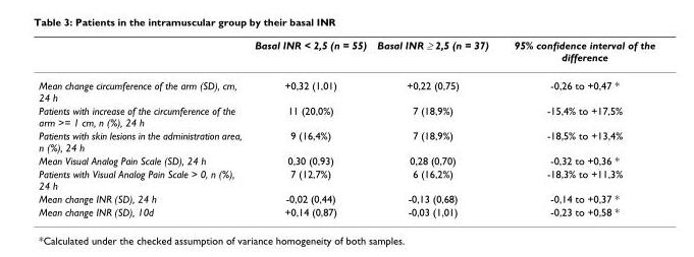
<table><thead><tr><td></td><td>Basal INR &lt; 2,5 (n = 55)</td><td>Basal INR ≥ 2,5 (n = 37)</td><td>95% confidence interval of the difference</td></tr></thead><tbody><tr><td>Mean change circumference of the arm (SD), cm, 24 h</td><td>+0,32 (1,01)</td><td>+0,22 (0,75)</td><td>-0,26 to +0,47 *</td></tr><tr><td>Patients with increase of the circumference of the arm &gt;= 1 cm, n (%), 24 h</td><td>11 (20,0%)</td><td>7 (18,9%)</td><td>-15,4% to +17,5%</td></tr><tr><td>Patients with skin lesions in the administration area, n (%), 24 h</td><td>9 (16,4%)</td><td>7 (18,9%)</td><td>-18,5% to +13,4%</td></tr><tr><td>Mean Visual Analog Pain Scale (SD), 24 h</td><td>0,30 (0,93)</td><td>0,28 (0,70)</td><td>-0,32 to +0,36 *</td></tr><tr><td>Patients with Visual Analog Pain Scale &gt; 0, n (%), 24 h</td><td>7 (12,7%)</td><td>6 (16,2%)</td><td>-18,3% to +11,3%</td></tr><tr><td>Mean change INR (SD), 24 h</td><td>-0,02 (0,44)</td><td>-0,13 (0,68)</td><td>-0,14 to +0,37 *</td></tr><tr><td>Mean change INR (SD), 10d</td><td>+0,14 (0,87)</td><td>-0,03 (1,01)</td><td>-0,23 to +0,58 *</td></tr></tbody></table>